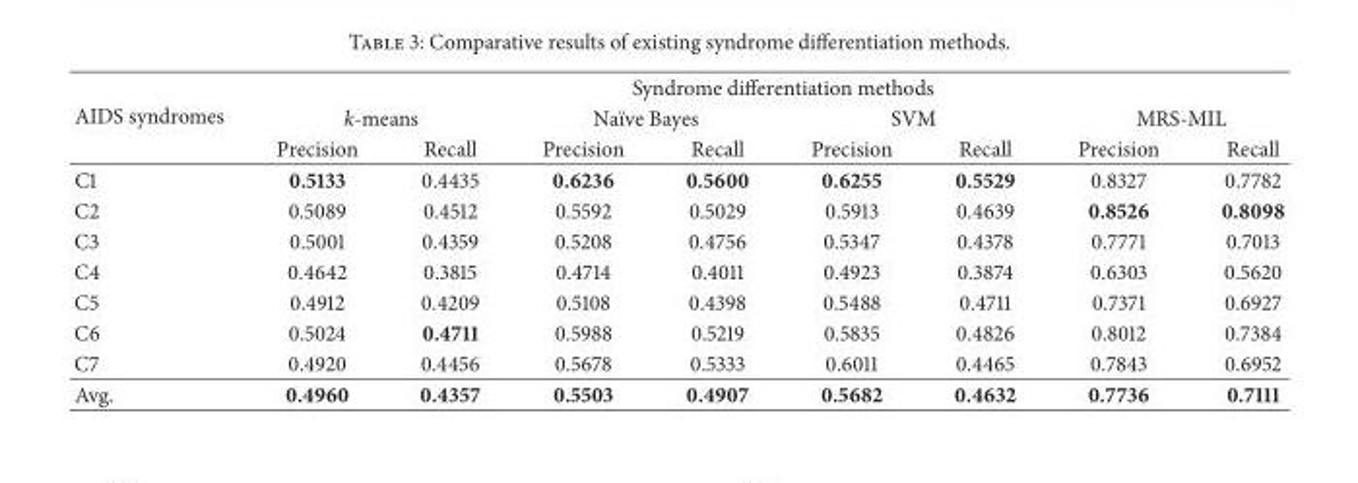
<table><thead><tr><td rowspan="3">AIDS syndromes</td><td colspan="8">Syndrome differentiation methods</td></tr><tr><td colspan="2">k-means</td><td colspan="2">Na¨ıve Bayes</td><td colspan="2">SVM</td><td colspan="2">MRS-MIL</td></tr><tr><td>Precision</td><td>Recall</td><td>Precision</td><td>Recall</td><td>Precision</td><td>Recall</td><td>Precision</td><td>Recall</td></tr></thead><tbody><tr><td>C1</td><td>0.5133</td><td>0.4435</td><td>0.6236</td><td>0.5600</td><td>0.6255</td><td>0.5529</td><td>0.8327</td><td>0.7782</td></tr><tr><td>C2</td><td>0.5089</td><td>0.4512</td><td>0.5592</td><td>0.5029</td><td>0.5913</td><td>0.4639</td><td>0.8526</td><td>0.8098</td></tr><tr><td>C3</td><td>0.5001</td><td>0.4359</td><td>0.5208</td><td>0.4756</td><td>0.5347</td><td>0.4378</td><td>0.7771</td><td>0.7013</td></tr><tr><td>C4</td><td>0.4642</td><td>0.3815</td><td>0.4714</td><td>0.4011</td><td>0.4923</td><td>0.3874</td><td>0.6303</td><td>0.5620</td></tr><tr><td>C5</td><td>0.4912</td><td>0.4209</td><td>0.5108</td><td>0.4398</td><td>0.5488</td><td>0.4711</td><td>0.7371</td><td>0.6927</td></tr><tr><td>C6</td><td>0.5024</td><td>0.4711</td><td>0.5988</td><td>0.5219</td><td>0.5835</td><td>0.4826</td><td>0.8012</td><td>0.7384</td></tr><tr><td>C7</td><td>0.4920</td><td>0.4456</td><td>0.5678</td><td>0.5333</td><td>0.6011</td><td>0.4465</td><td>0.7843</td><td>0.6952</td></tr><tr><td>Avg.</td><td>0.4960</td><td>0.4357</td><td>0.5503</td><td>0.4907</td><td>0.5682</td><td>0.4632</td><td>0.7736</td><td>0.7111</td></tr></tbody></table>